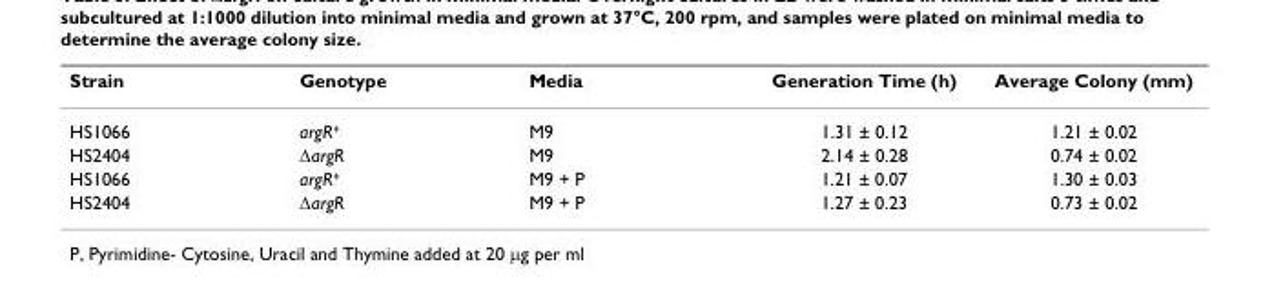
<table><thead><tr><td>Strain</td><td>Genotype</td><td>Media</td><td>Generation Time (h)</td><td>Average Colony (mm)</td></tr></thead><tbody><tr><td>HS1066</td><td>argR+</td><td>M9</td><td>1.31 ± 0.12</td><td>1.21 ± 0.02</td></tr><tr><td>HS2404</td><td>∆argR</td><td>M9</td><td>2.14 ± 0.28</td><td>0.74 ± 0.02</td></tr><tr><td>HS1066</td><td>argR+</td><td>M9 + P</td><td>1.21 ± 0.07</td><td>1.30 ± 0.03</td></tr><tr><td>HS2404</td><td>∆argR</td><td>M9 + P</td><td>1.27 ± 0.23</td><td>0.73 ± 0.02</td></tr></tbody></table>